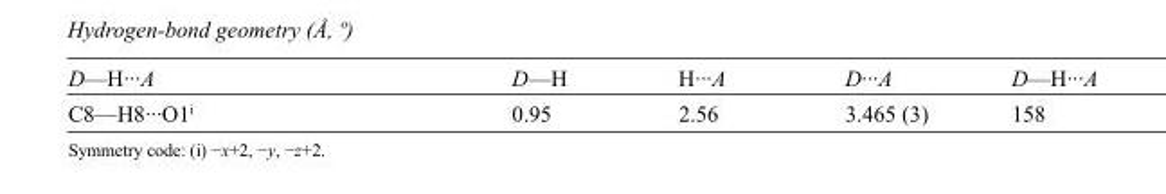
<table><tbody><tr><td>D—H···A</td><td>D—H</td><td>H···A</td><td>D···A</td><td>D—H···A</td></tr><tr><td>C8—H8···O1<sup>i</sup></td><td>0.95</td><td>2.56</td><td>3.465 (3)</td><td>158</td></tr></tbody></table>